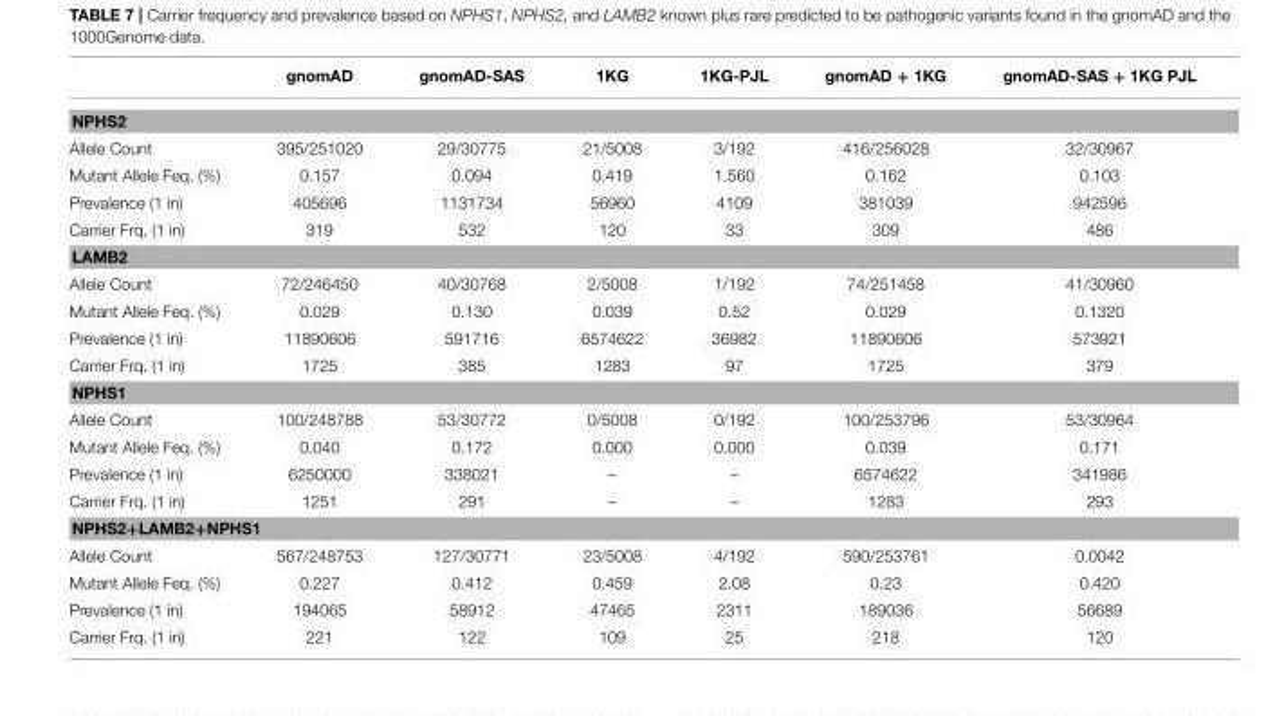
<table><thead><tr><td></td><td>gnomAD</td><td>gnomAD-SAS</td><td>1KG</td><td>1KG-PJL</td><td>gnomAD + 1KG</td><td>gnomAD-SAS + 1KG PJL</td></tr></thead><tbody><tr><td colspan="7">NPHS2</td></tr><tr><td>Allele Count</td><td>395/251020</td><td>29/30775</td><td>21/5008</td><td>3/192</td><td>416/256028</td><td>32/30967</td></tr><tr><td>Mutant Allele Feq. (%)</td><td>0.157</td><td>0.094</td><td>0.419</td><td>1.560</td><td>0.162</td><td>0.103</td></tr><tr><td>Prevalence (1 in)</td><td>405696</td><td>1131734</td><td>56960</td><td>4109</td><td>381039</td><td>942596</td></tr><tr><td>Carrier Frq. (1 in)</td><td>319</td><td>532</td><td>120</td><td>33</td><td>309</td><td>486</td></tr><tr><td colspan="7">LAMB2</td></tr><tr><td>Allele Count</td><td>72/246450</td><td>40/30768</td><td>2/5008</td><td>1/192</td><td>74/251458</td><td>41/30960</td></tr><tr><td>Mutant Allele Feq. (%)</td><td>0.029</td><td>0.130</td><td>0.039</td><td>0.52</td><td>0.029</td><td>0.1320</td></tr><tr><td>Prevalence (1 in)</td><td>11890606</td><td>591716</td><td>6574622</td><td>36982</td><td>11890606</td><td>573921</td></tr><tr><td>Carrier Frq. (1 in)</td><td>1725</td><td>385</td><td>1283</td><td>97</td><td>1725</td><td>379</td></tr><tr><td colspan="7">NPHS1</td></tr><tr><td>Allele Count</td><td>100/248788</td><td>53/30772</td><td>0/5008</td><td>0/192</td><td>100/253796</td><td>53/30964</td></tr><tr><td>Mutant Allele Feq. (%)</td><td>0.040</td><td>0.172</td><td>0.000</td><td>0.000</td><td>0.039</td><td>0.171</td></tr><tr><td>Prevalence (1 in)</td><td>6250000</td><td>338021</td><td>–</td><td>–</td><td>6574622</td><td>341986</td></tr><tr><td>Carrier Frq. (1 in)</td><td>1251</td><td>291</td><td>–</td><td>–</td><td>1283</td><td>293</td></tr><tr><td colspan="7">NPHS2+LAMB2+NPHS1</td></tr><tr><td>Allele Count</td><td>567/248753</td><td>127/30771</td><td>23/5008</td><td>4/192</td><td>590/253761</td><td>0.0042</td></tr><tr><td>Mutant Allele Feq. (%)</td><td>0.227</td><td>0.412</td><td>0.459</td><td>2.08</td><td>0.23</td><td>0.420</td></tr><tr><td>Prevalence (1 in)</td><td>194065</td><td>58912</td><td>47465</td><td>2311</td><td>189036</td><td>56689</td></tr><tr><td>Carrier Frq. (1 in)</td><td>221</td><td>122</td><td>109</td><td>25</td><td>218</td><td>120</td></tr></tbody></table>